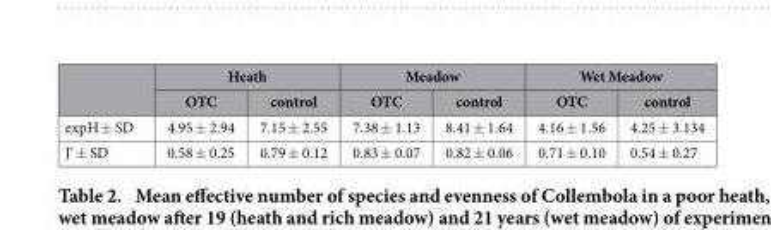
<table><thead><tr><td rowspan="2"></td><td colspan="2">Heath</td><td colspan="2">Meadow</td><td colspan="2">Wet Meadow</td></tr><tr><td>OTC</td><td>control</td><td>OTC</td><td>control</td><td>OTC</td><td>control</td></tr></thead><tbody><tr><td>expH ± SD</td><td>4.95 ± 2.94</td><td>7.15 ± 2.55</td><td>7.38 ± 1.13</td><td>8.41 ± 1.64</td><td>4.16 ± 1.56</td><td>4.25 ± 3.134</td></tr><tr><td>J’ ± SD</td><td>0.58 ± 0.25</td><td>0.79 ± 0.12</td><td>0.83 ± 0.07</td><td>0.82 ± 0.06</td><td>0.71 ± 0.10</td><td>0.54 ± 0.27</td></tr></tbody></table>